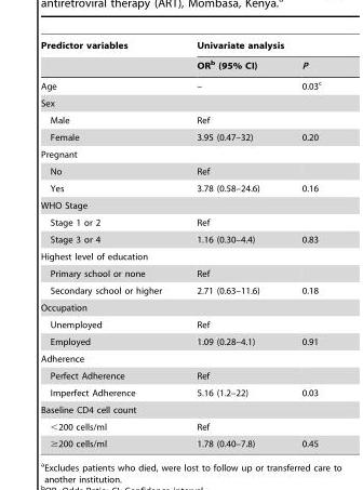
<table><thead><tr><td rowspan="2">Predictor variables</td><td colspan="2">Univariate analysis</td></tr><tr><td>OR<sup>b</sup> (95% CI)</td><td>P</td></tr></thead><tbody><tr><td>Age</td><td>–</td><td>0.03<sup>c</sup></td></tr><tr><td colspan="3">Sex</td></tr><tr><td>Male</td><td>Ref</td><td></td></tr><tr><td>Female</td><td>3.95 (0.47–32)</td><td>0.20</td></tr><tr><td colspan="3">Pregnant</td></tr><tr><td>No</td><td>Ref</td><td></td></tr><tr><td>Yes</td><td>3.78 (0.58–24.6)</td><td>0.16</td></tr><tr><td colspan="3">WHO Stage</td></tr><tr><td>Stage 1 or 2</td><td>Ref</td><td></td></tr><tr><td>Stage 3 or 4</td><td>1.16 (0.30–4.4)</td><td>0.83</td></tr><tr><td colspan="3">Highest level of education</td></tr><tr><td>Primary school or none</td><td>Ref</td><td></td></tr><tr><td>Secondary school or higher</td><td>2.71 (0.63–11.6)</td><td>0.18</td></tr><tr><td colspan="3">Occupation</td></tr><tr><td>Unemployed</td><td>Ref</td><td></td></tr><tr><td>Employed</td><td>1.09 (0.28–4.1)</td><td>0.91</td></tr><tr><td colspan="3">Adherence</td></tr><tr><td>Perfect Adherence</td><td>Ref</td><td></td></tr><tr><td>Imperfect Adherence</td><td>5.16 (1.2–22)</td><td>0.03</td></tr><tr><td colspan="3">Baseline CD4 cell count</td></tr><tr><td>&lt;200 cells/ml</td><td>Ref</td><td></td></tr><tr><td>≥200 cells/ml</td><td>1.78 (0.40–7.8)</td><td>0.45</td></tr></tbody></table>